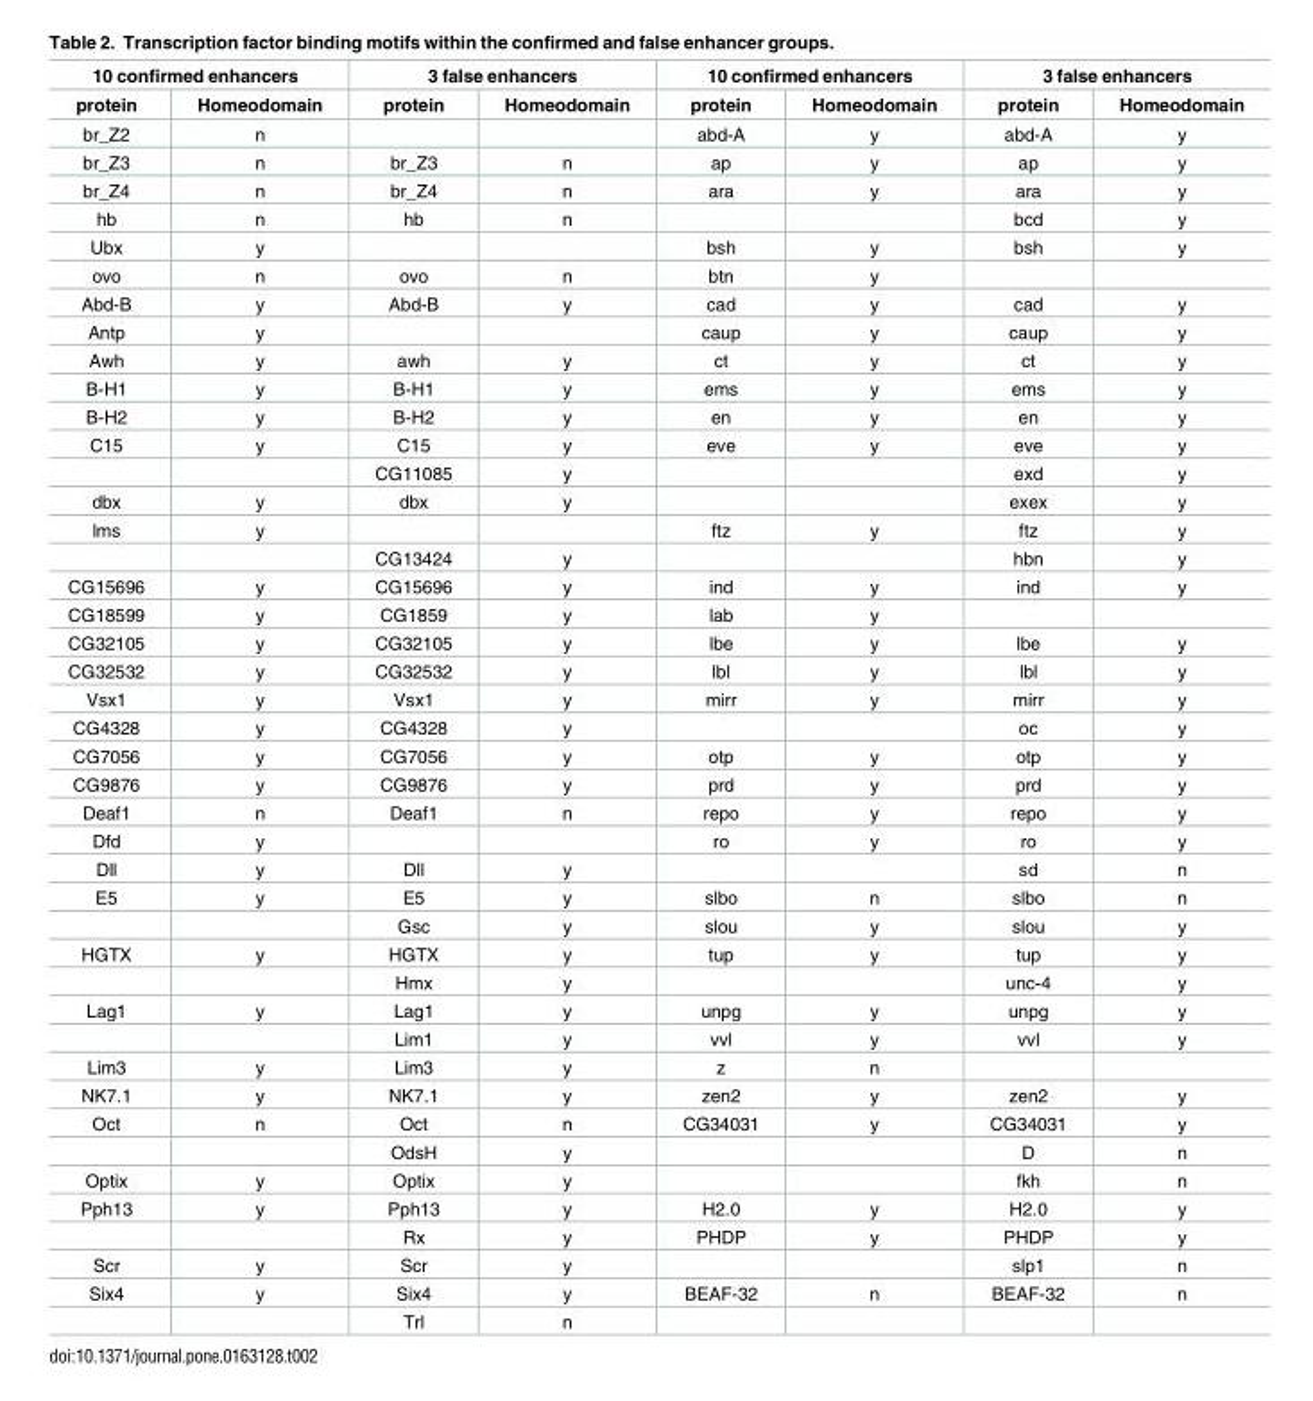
<table><thead><tr><td colspan="2">10 confirmed enhancers</td><td colspan="2">3 false enhancers</td><td colspan="2">10 confirmed enhancers</td><td colspan="2">3 false enhancers</td></tr><tr><td>protein</td><td>Homeodomain</td><td>protein</td><td>Homeodomain</td><td>protein</td><td>Homeodomain</td><td>protein</td><td>Homeodomain</td></tr></thead><tbody><tr><td>br_Z2</td><td>n</td><td></td><td></td><td>abd-A</td><td>y</td><td>abd-A</td><td>y</td></tr><tr><td>br_Z3</td><td>n</td><td>br_Z3</td><td>n</td><td>ap</td><td>y</td><td>ap</td><td>y</td></tr><tr><td>br_Z4</td><td>n</td><td>br_Z4</td><td>n</td><td>ara</td><td>y</td><td>ara</td><td>y</td></tr><tr><td>hb</td><td>n</td><td>hb</td><td>n</td><td></td><td></td><td>bcd</td><td>y</td></tr><tr><td>Ubx</td><td>y</td><td></td><td></td><td>bsh</td><td>y</td><td>bsh</td><td>y</td></tr><tr><td>ovo</td><td>n</td><td>ovo</td><td>n</td><td>btn</td><td>y</td><td></td><td></td></tr><tr><td>Abd-B</td><td>y</td><td>Abd-B</td><td>y</td><td>cad</td><td>y</td><td>cad</td><td>y</td></tr><tr><td>Antp</td><td>y</td><td></td><td></td><td>caup</td><td>y</td><td>caup</td><td>y</td></tr><tr><td>Awh</td><td>y</td><td>awh</td><td>y</td><td>ct</td><td>y</td><td>ct</td><td>y</td></tr><tr><td>B-H1</td><td>y</td><td>B-H1</td><td>y</td><td>ems</td><td>y</td><td>ems</td><td>y</td></tr><tr><td>B-H2</td><td>y</td><td>B-H2</td><td>y</td><td>en</td><td>y</td><td>en</td><td>y</td></tr><tr><td rowspan="2">C15</td><td>y</td><td>C15</td><td>y</td><td>eve</td><td>y</td><td>eve</td><td>y</td></tr><tr><td></td><td>CG11085</td><td>y</td><td></td><td></td><td>exd</td><td>y</td></tr><tr><td>dbx</td><td>y</td><td>dbx</td><td>y</td><td></td><td></td><td>exex</td><td>y</td></tr><tr><td rowspan="2">lms</td><td>y</td><td></td><td></td><td>ftz</td><td>y</td><td>ftz</td><td>y</td></tr><tr><td></td><td>CG13424</td><td>y</td><td></td><td></td><td>hbn</td><td>y</td></tr><tr><td>CG15696</td><td>y</td><td>CG15696</td><td>y</td><td>ind</td><td>y</td><td>ind</td><td>y</td></tr><tr><td>CG18599</td><td>y</td><td>CG1859</td><td>y</td><td>lab</td><td>y</td><td></td><td></td></tr><tr><td>CG32105</td><td>y</td><td>CG32105</td><td>y</td><td>lbe</td><td>y</td><td>lbe</td><td>y</td></tr><tr><td>CG32532</td><td>y</td><td>CG32532</td><td>y</td><td>lbl</td><td>y</td><td>lbl</td><td>y</td></tr><tr><td>Vsx1</td><td>y</td><td>Vsx1</td><td>y</td><td>mirr</td><td>y</td><td>mirr</td><td>y</td></tr><tr><td>CG4328</td><td>y</td><td>CG4328</td><td>y</td><td></td><td></td><td>oc</td><td>y</td></tr><tr><td>CG7056</td><td>y</td><td>CG7056</td><td>y</td><td>otp</td><td>y</td><td>otp</td><td>y</td></tr><tr><td>CG9876</td><td>y</td><td>CG9876</td><td>y</td><td>prd</td><td>y</td><td>prd</td><td>y</td></tr><tr><td>Deaf1</td><td>n</td><td>Deaf1</td><td>n</td><td>repo</td><td>y</td><td>repo</td><td>y</td></tr><tr><td>Dfd</td><td>y</td><td></td><td></td><td>ro</td><td>y</td><td>ro</td><td>y</td></tr><tr><td>Dll</td><td>y</td><td>Dll</td><td>y</td><td></td><td></td><td>sd</td><td>n</td></tr><tr><td rowspan="2">E5</td><td>y</td><td>E5</td><td>y</td><td>slbo</td><td>n</td><td>slbo</td><td>n</td></tr><tr><td></td><td>Gsc</td><td>y</td><td>slou</td><td>y</td><td>slou</td><td>y</td></tr><tr><td rowspan="2">HGTX</td><td>y</td><td>HGTX</td><td>y</td><td>tup</td><td>y</td><td>tup</td><td>y</td></tr><tr><td></td><td>Hmx</td><td>y</td><td></td><td></td><td>unc-4</td><td>y</td></tr><tr><td rowspan="2">Lag1</td><td>y</td><td>Lag1</td><td>y</td><td>unpg</td><td>y</td><td>unpg</td><td>y</td></tr><tr><td></td><td>Lim1</td><td>y</td><td>vvl</td><td>y</td><td>vvl</td><td>y</td></tr><tr><td>Lim3</td><td>y</td><td>Lim3</td><td>y</td><td>z</td><td>n</td><td></td><td></td></tr><tr><td>NK7.1</td><td>y</td><td>NK7.1</td><td>y</td><td>zen2</td><td>y</td><td>zen2</td><td>y</td></tr><tr><td rowspan="2">Oct</td><td>n</td><td>Oct</td><td>n</td><td>CG34031</td><td>y</td><td>CG34031</td><td>y</td></tr><tr><td></td><td>OdsH</td><td>y</td><td></td><td></td><td>D</td><td>n</td></tr><tr><td>Optix</td><td>y</td><td>Optix</td><td>y</td><td></td><td></td><td>fkh</td><td>n</td></tr><tr><td rowspan="2">Pph13</td><td>y</td><td>Pph13</td><td>y</td><td>H2.0</td><td>y</td><td>H2.0</td><td>y</td></tr><tr><td></td><td>Rx</td><td>y</td><td>PHDP</td><td>y</td><td>PHDP</td><td>y</td></tr><tr><td>Scr</td><td>y</td><td>Scr</td><td>y</td><td></td><td></td><td>slp1</td><td>n</td></tr><tr><td rowspan="2">Six4</td><td>y</td><td>Six4</td><td>y</td><td>BEAF-32</td><td>n</td><td>BEAF-32</td><td>n</td></tr><tr><td></td><td>Trl</td><td>n</td><td></td><td></td><td></td><td></td></tr></tbody></table>